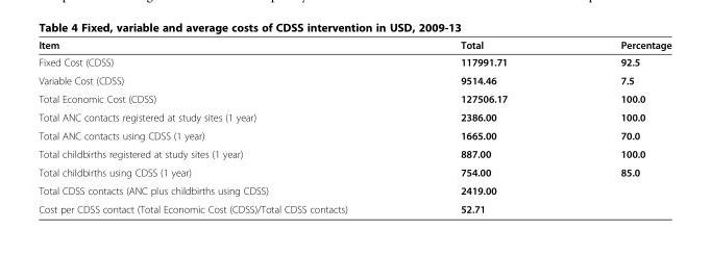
<table><thead><tr><td>Item</td><td>Total</td><td>Percentage</td></tr></thead><tbody><tr><td>Fixed Cost (CDSS)</td><td>117991.71</td><td>92.5</td></tr><tr><td>Variable Cost (CDSS)</td><td>9514.46</td><td>7.5</td></tr><tr><td>Total Economic Cost (CDSS)</td><td>127506.17</td><td>100.0</td></tr><tr><td>Total ANC contacts registered at study sites (1 year)</td><td>2386.00</td><td>100.0</td></tr><tr><td>Total ANC contacts using CDSS (1 year)</td><td>1665.00</td><td>70.0</td></tr><tr><td>Total childbirths registered at study sites (1 year)</td><td>887.00</td><td>100.0</td></tr><tr><td>Total childbirths using CDSS (1 year)</td><td>754.00</td><td>85.0</td></tr><tr><td>Total CDSS contacts (ANC plus childbirths using CDSS)</td><td>2419.00</td><td></td></tr><tr><td>Cost per CDSS contact (Total Economic Cost (CDSS)/Total CDSS contacts)</td><td>52.71</td><td></td></tr></tbody></table>